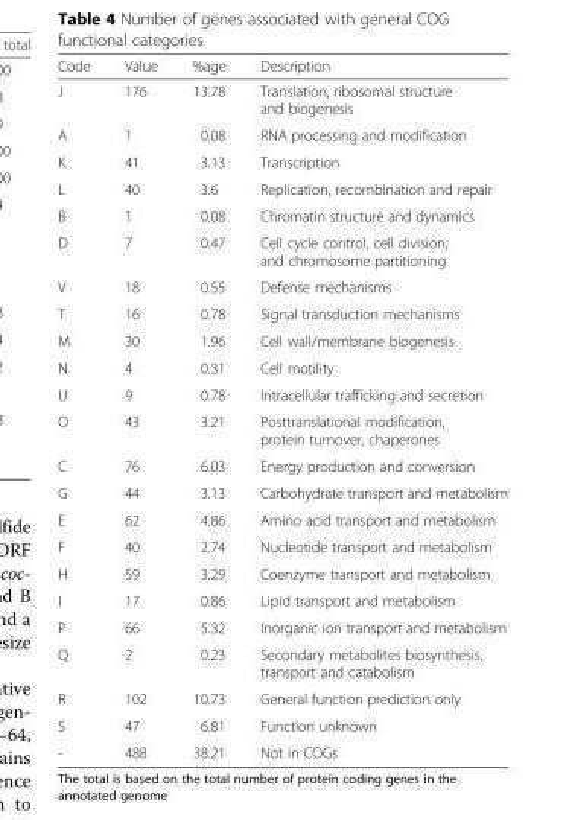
<table><thead><tr><td>Code</td><td>Value</td><td>%age</td><td>Description</td></tr></thead><tbody><tr><td>J</td><td>176</td><td>13.78</td><td>Translation, ribosomal structure and biogenesis</td></tr><tr><td>A</td><td>1</td><td>0.08</td><td>RNA processing and modification</td></tr><tr><td>K</td><td>41</td><td>3.13</td><td>Transcription</td></tr><tr><td>L</td><td>40</td><td>3.6</td><td>Replication, recombination and repair</td></tr><tr><td>B</td><td>1</td><td>0.08</td><td>Chromatin structure and dynamics</td></tr><tr><td>D</td><td>7</td><td>0.47</td><td>Cell cycle control, cell division, and chromosome partitioning</td></tr><tr><td>V</td><td>18</td><td>0.55</td><td>Defense mechanisms</td></tr><tr><td>T</td><td>16</td><td>0.78</td><td>Signal transduction mechanisms</td></tr><tr><td>M</td><td>30</td><td>1.96</td><td>Cell wall/membrane biogenesis</td></tr><tr><td>N</td><td>4</td><td>0.31</td><td>Cell motility</td></tr><tr><td>U</td><td>9</td><td>0.78</td><td>Intracellular trafficking and secretion</td></tr><tr><td>O</td><td>43</td><td>3.21</td><td>Posttranslational modification, protein turnover, chaperones</td></tr><tr><td>C</td><td>76</td><td>6.03</td><td>Energy production and conversion</td></tr><tr><td>G</td><td>44</td><td>3.13</td><td>Carbohydrate transport and metabolism</td></tr><tr><td>E</td><td>62</td><td>4.86</td><td>Amino acid transport and metabolism</td></tr><tr><td>F</td><td>40</td><td>2.74</td><td>Nucleotide transport and metabolism</td></tr><tr><td>H</td><td>59</td><td>3.29</td><td>Coenzyme transport and metabolism</td></tr><tr><td>I</td><td>17</td><td>0.86</td><td>Lipid transport and metabolism</td></tr><tr><td>P</td><td>66</td><td>5.32</td><td>Inorganic ion transport and metabolism</td></tr><tr><td>Q</td><td>2</td><td>0.23</td><td>Secondary metabolites biosynthesis, transport and catabolism</td></tr><tr><td>R</td><td>102</td><td>10.73</td><td>General function prediction only</td></tr><tr><td>S</td><td>47</td><td>6.81</td><td>Function unknown</td></tr><tr><td>-</td><td>488</td><td>38.21</td><td>Not in COGs</td></tr></tbody></table>